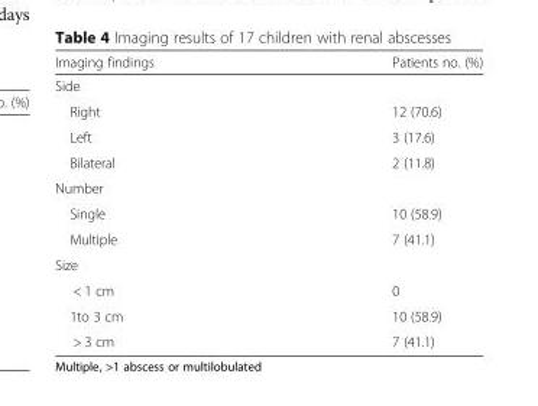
<table><thead><tr><td>Imaging findings</td><td>Patients no. (%)</td></tr></thead><tbody><tr><td colspan="2">Side</td></tr><tr><td>Right</td><td>12 (70.6)</td></tr><tr><td>Left</td><td>3 (17.6)</td></tr><tr><td>Bilateral</td><td>2 (11.8)</td></tr><tr><td colspan="2">Number</td></tr><tr><td>Single</td><td>10 (58.9)</td></tr><tr><td>Multiple</td><td>7 (41.1)</td></tr><tr><td colspan="2">Size</td></tr><tr><td>&lt; 1 cm</td><td>0</td></tr><tr><td>1to 3 cm</td><td>10 (58.9)</td></tr><tr><td>&gt; 3 cm</td><td>7 (41.1)</td></tr></tbody></table>